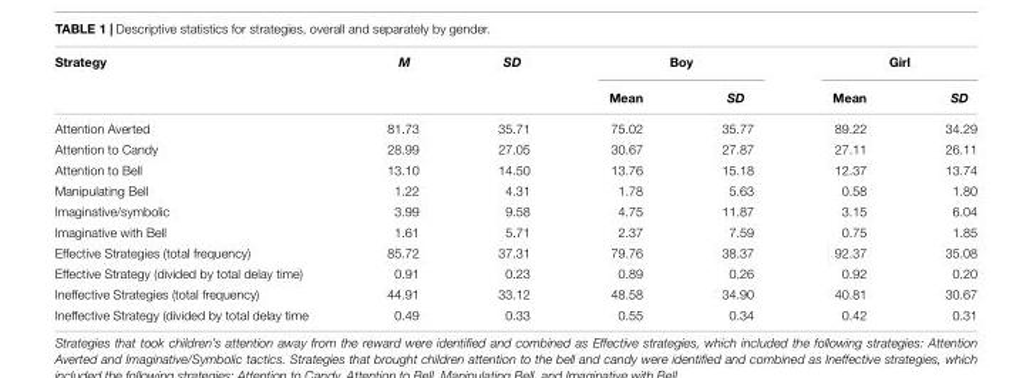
<table><thead><tr><td rowspan="2">Strategy</td><td rowspan="2">M</td><td rowspan="2">SD</td><td colspan="2">Boy</td><td colspan="2">Girl</td></tr><tr><td>Mean</td><td>SD</td><td>Mean</td><td>SD</td></tr></thead><tbody><tr><td>Attention Averted</td><td>81.73</td><td>35.71</td><td>75.02</td><td>35.77</td><td>89.22</td><td>34.29</td></tr><tr><td>Attention to Candy</td><td>28.99</td><td>27.05</td><td>30.67</td><td>27.87</td><td>27.11</td><td>26.11</td></tr><tr><td>Attention to Bell</td><td>13.10</td><td>14.50</td><td>13.76</td><td>15.18</td><td>12.37</td><td>13.74</td></tr><tr><td>Manipulating Bell</td><td>1.22</td><td>4.31</td><td>1.78</td><td>5.63</td><td>0.58</td><td>1.80</td></tr><tr><td>Imaginative/symbolic</td><td>3.99</td><td>9.58</td><td>4.75</td><td>11.87</td><td>3.15</td><td>6.04</td></tr><tr><td>Imaginative with Bell</td><td>1.61</td><td>5.71</td><td>2.37</td><td>7.59</td><td>0.75</td><td>1.85</td></tr><tr><td>Effective Strategies (total frequency)</td><td>85.72</td><td>37.31</td><td>79.76</td><td>38.37</td><td>92.37</td><td>35.08</td></tr><tr><td>Effective Strategy (divided by total delay time)</td><td>0.91</td><td>0.23</td><td>0.89</td><td>0.26</td><td>0.92</td><td>0.20</td></tr><tr><td>Ineffective Strategies (total frequency)</td><td>44.91</td><td>33.12</td><td>48.58</td><td>34.90</td><td>40.81</td><td>30.67</td></tr><tr><td>Ineffective Strategy (divided by total delay time</td><td>0.49</td><td>0.33</td><td>0.55</td><td>0.34</td><td>0.42</td><td>0.31</td></tr></tbody></table>